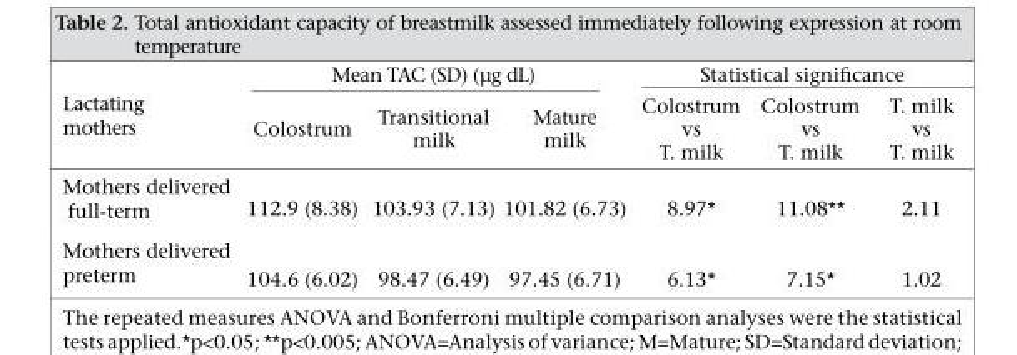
<table><thead><tr><td rowspan="2">Lactating mothers</td><td colspan="3">Mean TAC (SD) (µg dL)</td><td colspan="3">Statistical significance</td></tr><tr><td>Colostrum</td><td>Transitional milk</td><td>Mature milk</td><td>Colostrum vs T. milk</td><td>Colostrum vs T. milk</td><td>T. milk vs T. milk</td></tr></thead><tbody><tr><td>Mothers delivered full-term</td><td>112.9 (8.38)</td><td>103.93 (7.13)</td><td>101.82 (6.73)</td><td>8.97*</td><td>11.08**</td><td>2.11</td></tr><tr><td>Mothers delivered preterm</td><td>104.6 (6.02)</td><td>98.47 (6.49)</td><td>97.45 (6.71)</td><td>6.13*</td><td>7.15*</td><td>1.02</td></tr></tbody></table>